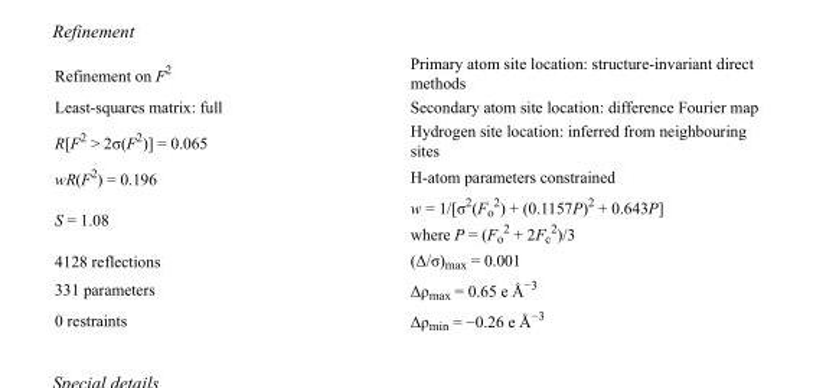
<table><tbody><tr><td>Refinement on F<sup>2</sup></td><td>Primary atom site location: structure-invariant direct methods</td></tr><tr><td>Least-squares matrix: full</td><td>Secondary atom site location: difference Fourier map</td></tr><tr><td>R[F<sup>2</sup> &gt; 2σ(F<sup>2</sup>)] = 0.065</td><td>Hydrogen site location: inferred from neighbouring sites</td></tr><tr><td>wR(F<sup>2</sup>) = 0.196</td><td>H-atom parameters constrained</td></tr><tr><td>S = 1.08</td><td>w = 1/[σ<sup>2</sup>(F<sub>o</sub> <sup>2</sup>) + (0.1157P)<sup>2</sup> + 0.643P] where P = (F<sub>o</sub> <sup>2</sup> + 2F<sub>c</sub> <sup>2</sup>)/3</td></tr><tr><td>4128 reflections</td><td>(Δ/σ)<sub>max</sub> = 0.001</td></tr><tr><td>331 parameters</td><td>Δρ<sub>max</sub> = 0.65 e Å<sup>−3</sup></td></tr><tr><td>0 restraints</td><td>Δρ<sub>min</sub> = −0.26 e Å<sup>−3</sup></td></tr></tbody></table>